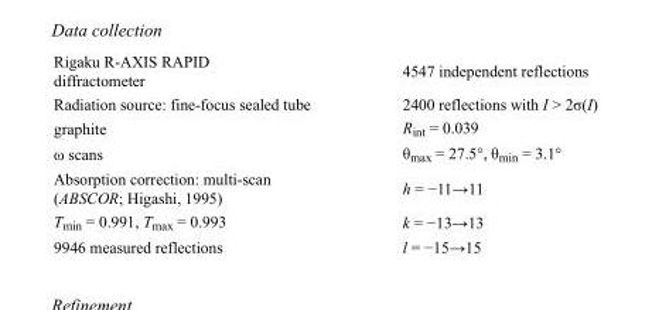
<table><tbody><tr><td>Rigaku R-AXIS RAPID diffractometer</td><td>4547 independent reflections</td></tr><tr><td>Radiation source: fine-focus sealed tube</td><td>2400 reflections with I &gt; 2σ(I)</td></tr><tr><td>graphite</td><td>R<sub>int</sub> = 0.039</td></tr><tr><td>ω scans</td><td>θ<sub>max</sub> = 27.5°, θ<sub>min</sub> = 3.1°</td></tr><tr><td>Absorption correction: multi-scan (ABSCOR; Higashi, 1995)</td><td>h = −11→11</td></tr><tr><td>T<sub>min</sub> = 0.991, T<sub>max</sub> = 0.993</td><td>k = −13→13</td></tr><tr><td>9946 measured reflections</td><td>l = −15→15</td></tr></tbody></table>